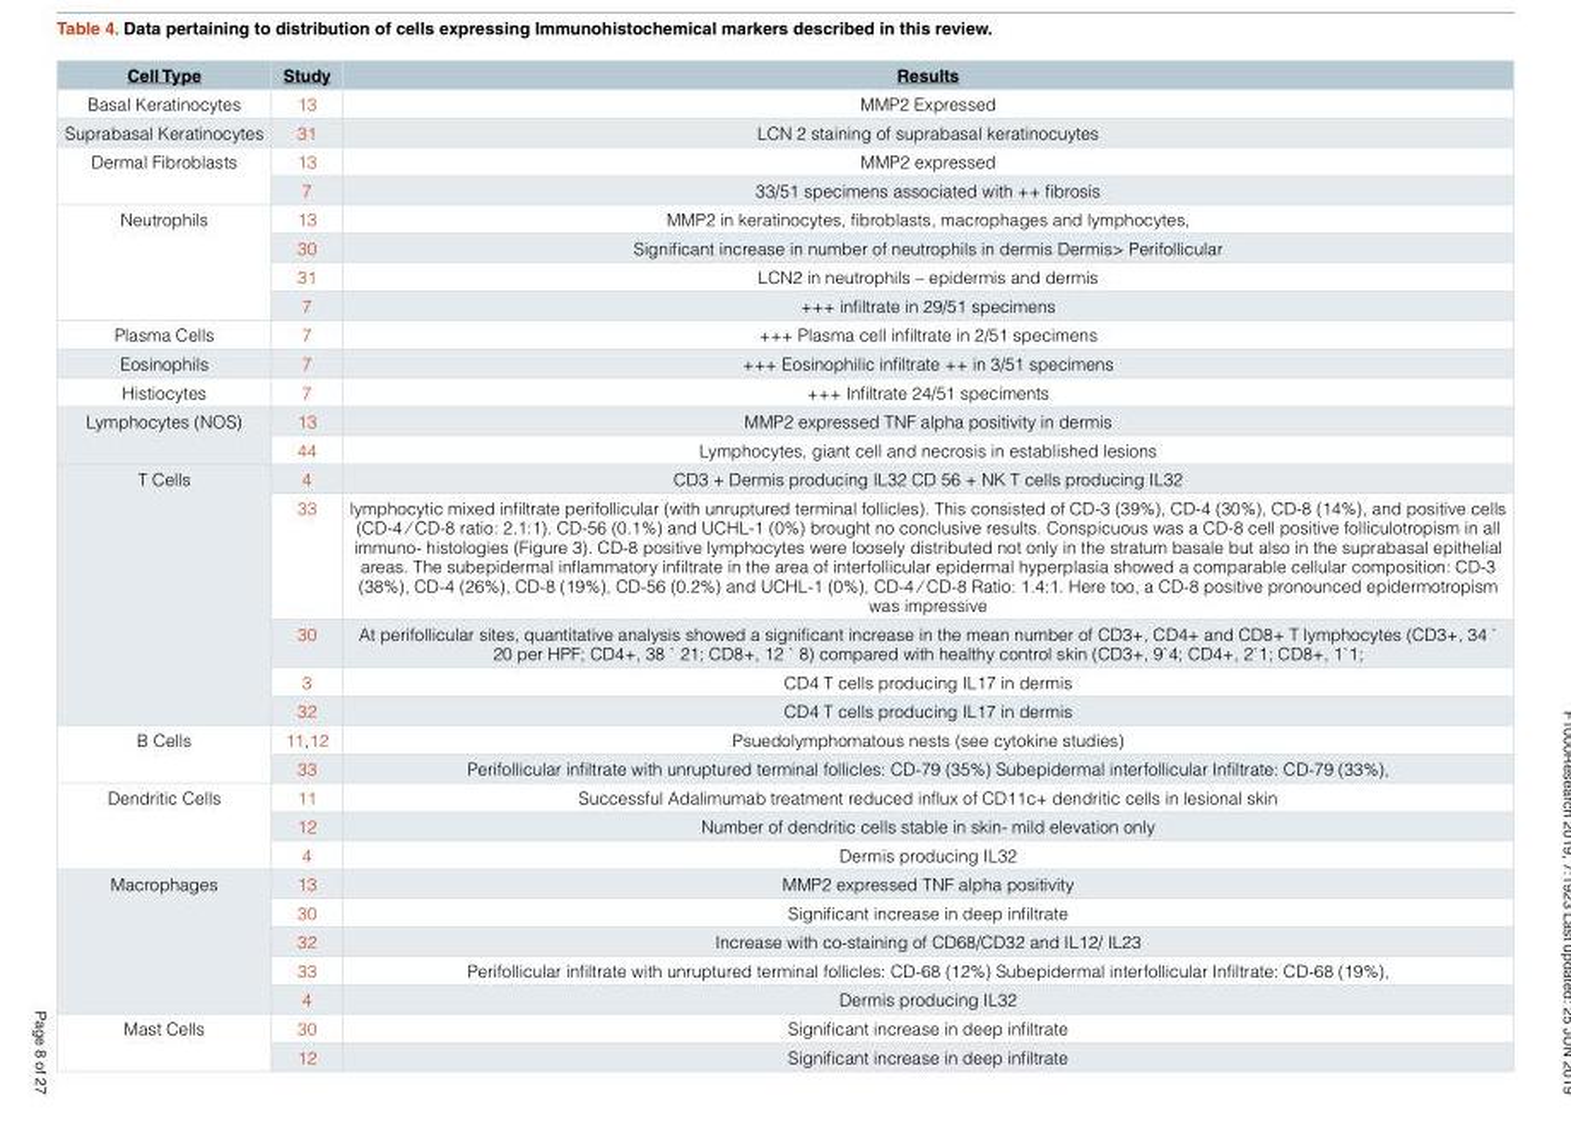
<table><thead><tr><td>Cell Type</td><td>Study</td><td>Results</td></tr></thead><tbody><tr><td>Basal Keratinocytes</td><td>13</td><td>MMP2 Expressed</td></tr><tr><td>Suprabasal Keratinocytes</td><td>31</td><td>LCN 2 staining of suprabasal keratinocuytes</td></tr><tr><td rowspan="2">Dermal Fibroblasts</td><td>13</td><td>MMP2 expressed</td></tr><tr><td>7</td><td>33/51 specimens associated with ++ fibrosis</td></tr><tr><td rowspan="4">Neutrophils</td><td>13</td><td>MMP2 in keratinocytes, fibroblasts, macrophages and lymphocytes,</td></tr><tr><td>30</td><td>Significant increase in number of neutrophils in dermis Dermis&gt; Perifollicular</td></tr><tr><td>31</td><td>LCN2 in neutrophils – epidermis and dermis</td></tr><tr><td>7</td><td>+++ infiltrate in 29/51 specimens</td></tr><tr><td>Plasma Cells</td><td>7</td><td>+++ Plasma cell infiltrate in 2/51 specimens</td></tr><tr><td>Eosinophils</td><td>7</td><td>+++ Eosinophilic infiltrate ++ in 3/51 specimens</td></tr><tr><td>Histiocytes</td><td>7</td><td>+++ Infiltrate 24/51 speciments</td></tr><tr><td rowspan="2">Lymphocytes (NOS)</td><td>13</td><td>MMP2 expressed TNF alpha positivity in dermis</td></tr><tr><td>44</td><td>Lymphocytes, giant cell and necrosis in established lesions</td></tr><tr><td rowspan="5">T Cells</td><td>4</td><td>CD3 + Dermis producing IL32 CD 56 + NK T cells producing IL32</td></tr><tr><td>33</td><td>lymphocytic mixed infiltrate perifollicular (with unruptured terminal follicles). This consisted of CD-3 (39%), CD-4 (30%), CD-8 (14%), and positive cells (CD-4 ⁄ CD-8 ratio: 2.1:1). CD-56 (0.1%) and UCHL-1 (0%) brought no conclusive results. Conspicuous was a CD-8 cell positive folliculotropism in all immuno- histologies (Figure 3). CD-8 positive lymphocytes were loosely distributed not only in the stratum basale but also in the suprabasal epithelial areas. The subepidermal inflammatory infiltrate in the area of interfollicular epidermal hyperplasia showed a comparable cellular composition: CD-3 (38%), CD-4 (26%), CD-8 (19%), CD-56 (0.2%) and UCHL-1 (0%), CD-4 ⁄ CD-8 Ratio: 1.4:1. Here too, a CD-8 positive pronounced epidermotropism was impressive</td></tr><tr><td>30</td><td>At perifollicular sites, quantitative analysis showed a significant increase in the mean number of CD3+, CD4+ and CD8+ T lymphocytes (CD3+, 34 ` 20 per HPF; CD4+, 38 ` 21; CD8+, 12 ` 8) compared with healthy control skin (CD3+, 9`4; CD4+, 2`1; CD8+, 1`1;</td></tr><tr><td>3</td><td>CD4 T cells producing IL17 in dermis</td></tr><tr><td>32</td><td>CD4 T cells producing IL17 in dermis</td></tr><tr><td rowspan="2">B Cells</td><td>11,12</td><td>Psuedolymphomatous nests (see cytokine studies)</td></tr><tr><td>33</td><td>Perifollicular infiltrate with unruptured terminal follicles: CD-79 (35%) Subepidermal interfollicular Infiltrate: CD-79 (33%),</td></tr><tr><td rowspan="3">Dendritic Cells</td><td>11</td><td>Successful Adalimumab treatment reduced influx of CD11c+ dendritic cells in lesional skin</td></tr><tr><td>12</td><td>Number of dendritic cells stable in skin- mild elevation only</td></tr><tr><td>4</td><td>Dermis producing IL32</td></tr><tr><td rowspan="5">Macrophages</td><td>13</td><td>MMP2 expressed TNF alpha positivity</td></tr><tr><td>30</td><td>Significant increase in deep infiltrate</td></tr><tr><td>32</td><td>Increase with co-staining of CD68/CD32 and IL12/ IL23</td></tr><tr><td>33</td><td>Perifollicular infiltrate with unruptured terminal follicles: CD-68 (12%) Subepidermal interfollicular Infiltrate: CD-68 (19%),</td></tr><tr><td>4</td><td>Dermis producing IL32</td></tr><tr><td rowspan="2">Mast Cells</td><td>30</td><td>Significant increase in deep infiltrate</td></tr><tr><td>12</td><td>Significant increase in deep infiltrate</td></tr></tbody></table>